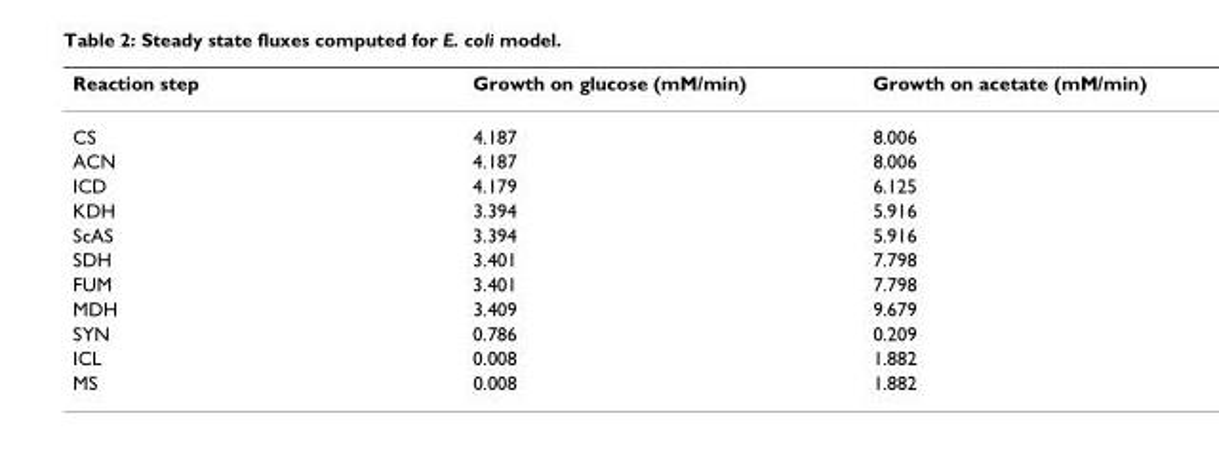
<table><thead><tr><td>Reaction step</td><td>Growth on glucose (mM/min)</td><td>Growth on acetate (mM/min)</td></tr></thead><tbody><tr><td>CS</td><td>4.187</td><td>8.006</td></tr><tr><td>ACN</td><td>4.187</td><td>8.006</td></tr><tr><td>ICD</td><td>4.179</td><td>6.125</td></tr><tr><td>KDH</td><td>3.394</td><td>5.916</td></tr><tr><td>ScAS</td><td>3.394</td><td>5.916</td></tr><tr><td>SDH</td><td>3.401</td><td>7.798</td></tr><tr><td>FUM</td><td>3.401</td><td>7.798</td></tr><tr><td>MDH</td><td>3.409</td><td>9.679</td></tr><tr><td>SYN</td><td>0.786</td><td>0.209</td></tr><tr><td>ICL</td><td>0.008</td><td>1.882</td></tr><tr><td>MS</td><td>0.008</td><td>1.882</td></tr></tbody></table>